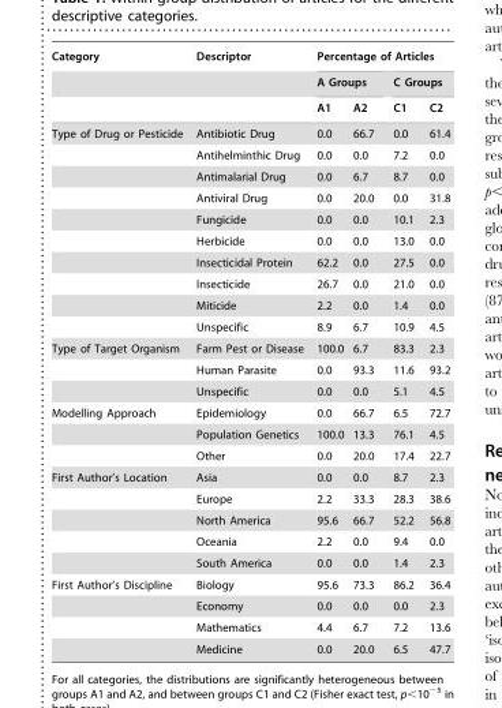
<table><thead><tr><td rowspan="3">Category</td><td rowspan="3">Descriptor</td><td colspan="4">Percentage of Articles</td></tr><tr><td colspan="2">A Groups</td><td colspan="2">C Groups</td></tr><tr><td>A1</td><td>A2</td><td>C1</td><td>C2</td></tr></thead><tbody><tr><td rowspan="10">Type of Drug or Pesticide</td><td>Antibiotic Drug</td><td>0.0</td><td>66.7</td><td>0.0</td><td>61.4</td></tr><tr><td>Antihelminthic Drug</td><td>0.0</td><td>0.0</td><td>7.2</td><td>0.0</td></tr><tr><td>Antimalarial Drug</td><td>0.0</td><td>6.7</td><td>8.7</td><td>0.0</td></tr><tr><td>Antiviral Drug</td><td>0.0</td><td>20.0</td><td>0.0</td><td>31.8</td></tr><tr><td>Fungicide</td><td>0.0</td><td>0.0</td><td>10.1</td><td>2.3</td></tr><tr><td>Herbicide</td><td>0.0</td><td>0.0</td><td>13.0</td><td>0.0</td></tr><tr><td>Insecticidal Protein</td><td>62.2</td><td>0.0</td><td>27.5</td><td>0.0</td></tr><tr><td>Insecticide</td><td>26.7</td><td>0.0</td><td>21.0</td><td>0.0</td></tr><tr><td>Miticide</td><td>2.2</td><td>0.0</td><td>1.4</td><td>0.0</td></tr><tr><td>Unspecific</td><td>8.9</td><td>6.7</td><td>10.9</td><td>4.5</td></tr><tr><td rowspan="3">Type of Target Organism</td><td>Farm Pest or Disease</td><td>100.0</td><td>6.7</td><td>83.3</td><td>2.3</td></tr><tr><td>Human Parasite</td><td>0.0</td><td>93.3</td><td>11.6</td><td>93.2</td></tr><tr><td>Unspecific</td><td>0.0</td><td>0.0</td><td>5.1</td><td>4.5</td></tr><tr><td rowspan="3">Modelling Approach</td><td>Epidemiology</td><td>0.0</td><td>66.7</td><td>6.5</td><td>72.7</td></tr><tr><td>Population Genetics</td><td>100.0</td><td>13.3</td><td>76.1</td><td>4.5</td></tr><tr><td>Other</td><td>0.0</td><td>20.0</td><td>17.4</td><td>22.7</td></tr><tr><td rowspan="5">First Author’s Location</td><td>Asia</td><td>0.0</td><td>0.0</td><td>8.7</td><td>2.3</td></tr><tr><td>Europe</td><td>2.2</td><td>33.3</td><td>28.3</td><td>38.6</td></tr><tr><td>North America</td><td>95.6</td><td>66.7</td><td>52.2</td><td>56.8</td></tr><tr><td>Oceania</td><td>2.2</td><td>0.0</td><td>9.4</td><td>0.0</td></tr><tr><td>South America</td><td>0.0</td><td>0.0</td><td>1.4</td><td>2.3</td></tr><tr><td rowspan="4">First Author’s Discipline</td><td>Biology</td><td>95.6</td><td>73.3</td><td>86.2</td><td>36.4</td></tr><tr><td>Economy</td><td>0.0</td><td>0.0</td><td>0.0</td><td>2.3</td></tr><tr><td>Mathematics</td><td>4.4</td><td>6.7</td><td>7.2</td><td>13.6</td></tr><tr><td>Medicine</td><td>0.0</td><td>20.0</td><td>6.5</td><td>47.7</td></tr></tbody></table>